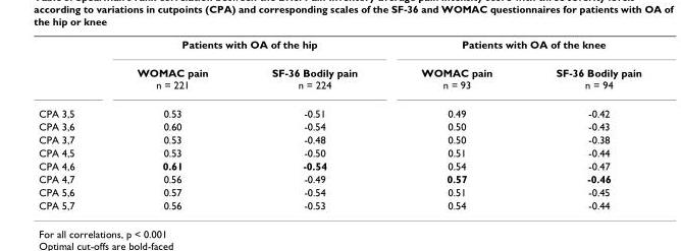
<table><thead><tr><td rowspan="2"></td><td colspan="2">Patients with OA of the hip</td><td colspan="2">Patients with OA of the knee</td></tr><tr><td>WOMAC pain n = 221</td><td>SF-36 Bodily pain n = 224</td><td>WOMAC pain n = 93</td><td>SF-36 Bodily pain n = 94</td></tr></thead><tbody><tr><td>CPA 3,5</td><td>0.53</td><td>-0.51</td><td>0.49</td><td>-0.42</td></tr><tr><td>CPA 3,6</td><td>0.60</td><td>-0.54</td><td>0.50</td><td>-0.43</td></tr><tr><td>CPA 3,7</td><td>0.53</td><td>-0.48</td><td>0.50</td><td>-0.38</td></tr><tr><td>CPA 4,5</td><td>0.53</td><td>-0.50</td><td>0.51</td><td>-0.44</td></tr><tr><td>CPA 4,6</td><td>0.61</td><td>-0.54</td><td>0.54</td><td>-0.47</td></tr><tr><td>CPA 4,7</td><td>0.56</td><td>-0.49</td><td>0.57</td><td>-0.46</td></tr><tr><td>CPA 5,6</td><td>0.57</td><td>-0.54</td><td>0.51</td><td>-0.45</td></tr><tr><td>CPA 5,7</td><td>0.56</td><td>-0.53</td><td>0.54</td><td>-0.44</td></tr></tbody></table>